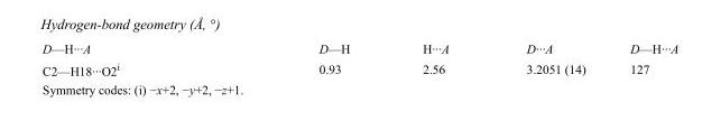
<table><tbody><tr><td>D—H···A</td><td>D—H</td><td>H···A</td><td>D···A</td><td>D—H···A</td></tr><tr><td>C2—H18···O2<sup>i</sup></td><td>0.93</td><td>2.56</td><td>3.2051 (14)</td><td>127</td></tr></tbody></table>